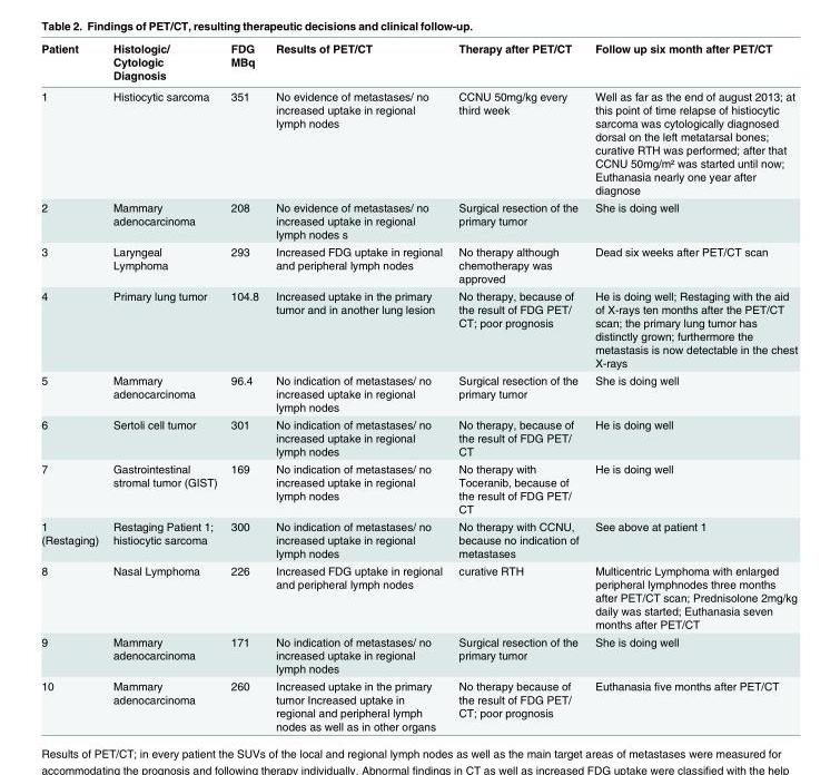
<table><thead><tr><td>Patient</td><td>Histologic/ Cytologic Diagnosis</td><td>FDG MBq</td><td>Results of PET/CT</td><td>Therapy after PET/CT</td><td>Follow up six month after PET/CT</td></tr></thead><tbody><tr><td>1</td><td>Histiocytic sarcoma</td><td>351</td><td>No evidence of metastases/ no increased uptake in regional lymph nodes</td><td>CCNU 50mg/kg every third week</td><td>Well as far as the end of august 2013; at this point of time relapse of histiocytic sarcoma was cytologically diagnosed dorsal on the left metatarsal bones; curative RTH was performed; after that CCNU 50mg/m² was started until now; Euthanasia nearly one year after diagnose</td></tr><tr><td>2</td><td>Mammary adenocarcinoma</td><td>208</td><td>No evidence of metastases/ no increased uptake in regional lymph nodes s</td><td>Surgical resection of the primary tumor</td><td>She is doing well</td></tr><tr><td>3</td><td>Laryngeal Lymphoma</td><td>293</td><td>Increased FDG uptake in regional and peripheral lymph nodes</td><td>No therapy although chemotherapy was approved</td><td>Dead six weeks after PET/CT scan</td></tr><tr><td>4</td><td>Primary lung tumor</td><td>104.8</td><td>Increased uptake in the primary tumor and in another lung lesion</td><td>No therapy, because of the result of FDG PET/ CT; poor prognosis</td><td>He is doing well; Restaging with the aid of X-rays ten months after the PET/CT scan; the primary lung tumor has distinctly grown; furthermore the metastasis is now detectable in the chest X-rays</td></tr><tr><td>5</td><td>Mammary adenocarcinoma</td><td>96.4</td><td>No indication of metastases/ no increased uptake in regional lymph nodes</td><td>Surgical resection of the primary tumor</td><td>She is doing well</td></tr><tr><td>6</td><td>Sertoli cell tumor</td><td>301</td><td>No indication of metastases/ no increased uptake in regional lymph nodes</td><td>No therapy, because of the result of FDG PET/ CT</td><td>He is doing well</td></tr><tr><td>7</td><td>Gastrointestinal stromal tumor (GIST)</td><td>169</td><td>No indication of metastases/ no increased uptake in regional lymph nodes</td><td>No therapy with Toceranib, because of the result of FDG PET/ CT</td><td>He is doing well</td></tr><tr><td>1 (Restaging)</td><td>Restaging Patient 1; histiocytic sarcoma</td><td>300</td><td>No indication of metastases/ no increased uptake in regional lymph nodes</td><td>No therapy with CCNU, because no indication of metastases</td><td>See above at patient 1</td></tr><tr><td>8</td><td>Nasal Lymphoma</td><td>226</td><td>Increased FDG uptake in regional and peripheral lymph nodes</td><td>curative RTH</td><td>Multicentric Lymphoma with enlarged peripheral lymphnodes three months after PET/CT scan; Prednisolone 2mg/kg daily was started; Euthanasia seven months after PET/CT</td></tr><tr><td>9</td><td>Mammary adenocarcinoma</td><td>171</td><td>No indication of metastases/ no increased uptake in regional lymph nodes</td><td>Surgical resection of the primary tumor</td><td>She is doing well</td></tr><tr><td>10</td><td>Mammary adenocarcinoma</td><td>260</td><td>Increased uptake in the primary tumor Increased uptake in regional and peripheral lymph nodes as well as in other organs</td><td>No therapy because of the result of FDG PET/ CT; poor prognosis</td><td>Euthanasia five months after PET/CT</td></tr></tbody></table>